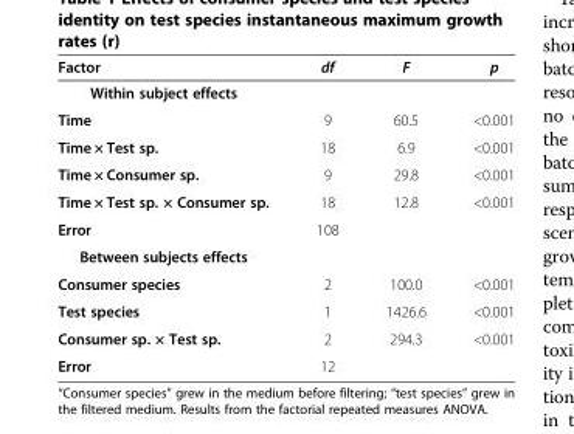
<table><thead><tr><td>Factor</td><td>df</td><td>F</td><td>p</td></tr></thead><tbody><tr><td colspan="4">Within subject effects</td></tr><tr><td>Time</td><td>9</td><td>60.5</td><td>&lt;0.001</td></tr><tr><td>Time × Test sp.</td><td>18</td><td>6.9</td><td>&lt;0.001</td></tr><tr><td>Time × Consumer sp.</td><td>9</td><td>29.8</td><td>&lt;0.001</td></tr><tr><td>Time × Test sp. × Consumer sp.</td><td>18</td><td>12.8</td><td>&lt;0.001</td></tr><tr><td>Error</td><td>108</td><td></td><td></td></tr><tr><td colspan="4">Between subjects effects</td></tr><tr><td>Consumer species</td><td>2</td><td>100.0</td><td>&lt;0.001</td></tr><tr><td>Test species</td><td>1</td><td>1426.6</td><td>&lt;0.001</td></tr><tr><td>Consumer sp. × Test sp.</td><td>2</td><td>294.3</td><td>&lt;0.001</td></tr><tr><td>Error</td><td>12</td><td></td><td></td></tr></tbody></table>